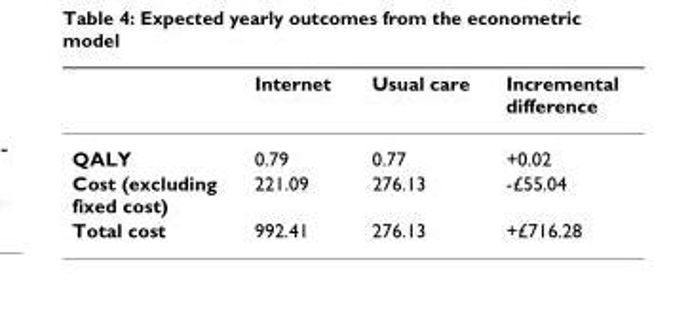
<table><thead><tr><td></td><td>Internet</td><td>Usual care</td><td>Incremental difference</td></tr></thead><tbody><tr><td>QALY</td><td>0.79</td><td>0.77</td><td>+0.02</td></tr><tr><td>Cost (excluding fixed cost)</td><td>221.09</td><td>276.13</td><td>-£55.04</td></tr><tr><td>Total cost</td><td>992.41</td><td>276.13</td><td>+£716.28</td></tr></tbody></table>